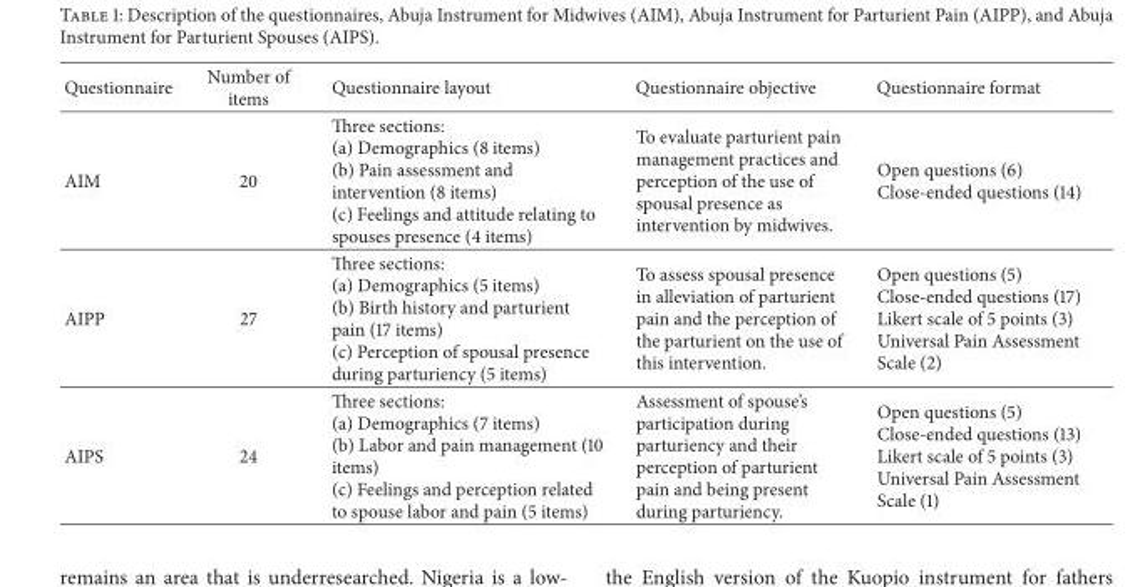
<table><thead><tr><td>Questionnaire</td><td>Number of items</td><td>Questionnaire layout</td><td>Questionnaire objective</td><td>Questionnaire format</td></tr></thead><tbody><tr><td>AIM</td><td>20</td><td>Three sections: (a) Demographics (8 items) (b) Pain assessment and intervention (8 items) (c) Feelings and attitude relating to spouses presence (4 items)</td><td>To evaluate parturient pain management practices and perception of the use of spousal presence as intervention by midwives.</td><td>Open questions (6) Close-ended questions (14)</td></tr><tr><td>AIPP</td><td>27</td><td>Three sections: (a) Demographics (5 items) (b) Birth history and parturient pain (17 items) (c) Perception of spousal presence during parturiency (5 items)</td><td>To assess spousal presence in alleviation of parturient pain and the perception of the parturient on the use of this intervention.</td><td>Open questions (5) Close-ended questions (17) Likert scale of 5 points (3) Universal Pain Assessment Scale (2)</td></tr><tr><td>AIPS</td><td>24</td><td>Three sections: (a) Demographics (7 items) (b) Labor and pain management (10 items) (c) Feelings and perception related to spouse labor and pain (5 items)</td><td>Assessment of spouse’s participation during parturiency and their perception of parturient pain and being present during parturiency.</td><td>Open questions (5) Close-ended questions (13) Likert scale of 5 points (3) Universal Pain Assessment Scale (1)</td></tr></tbody></table>